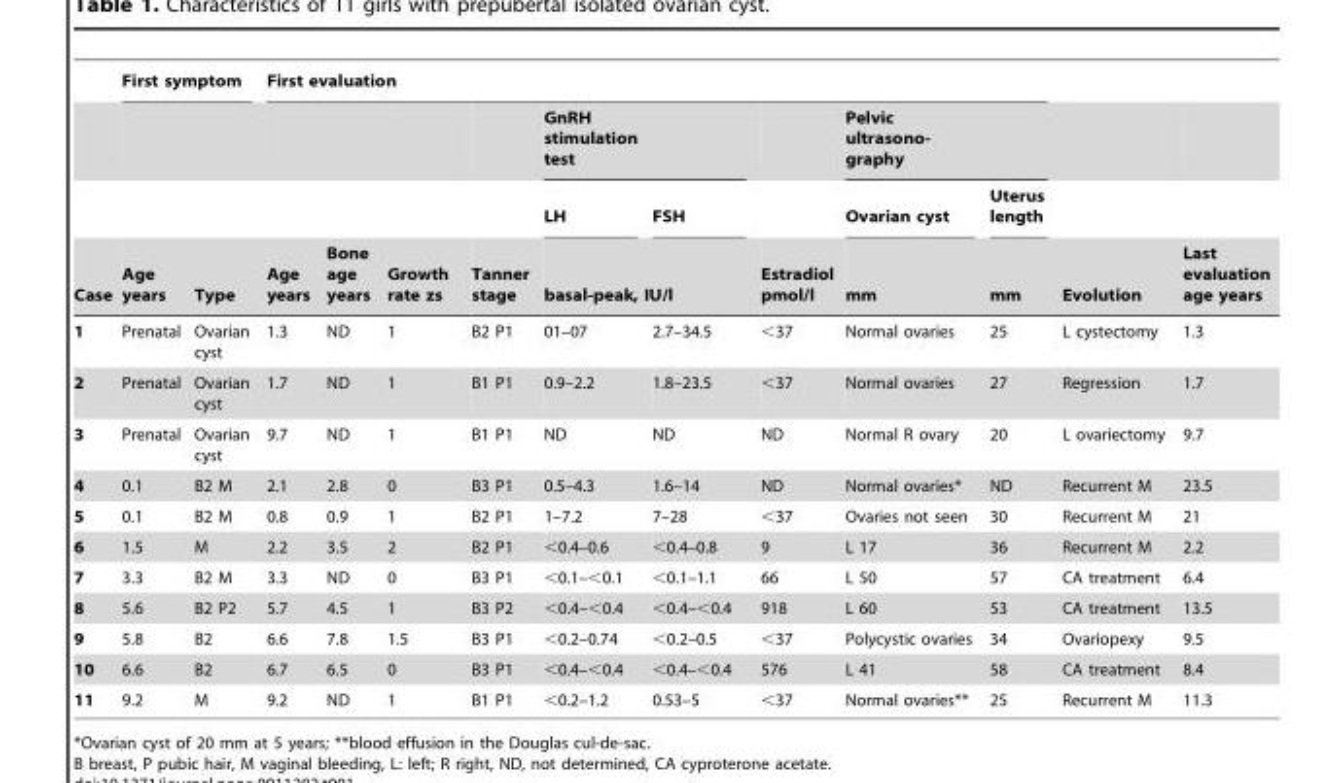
<table><thead><tr><td rowspan="4">Case</td><td colspan="2">First symptom</td><td colspan="9">First evaluation</td><td rowspan="4">Evolution</td><td rowspan="4">Last evaluation age years</td></tr><tr><td rowspan="3">Age years</td><td rowspan="3">Type</td><td rowspan="3">Age years</td><td rowspan="3">Bone age years</td><td rowspan="3">Growth rate zs</td><td rowspan="3">Tanner stage</td><td colspan="2">GnRH stimulation test</td><td rowspan="3">Estradiol pmol/l</td><td colspan="2">Pelvic ultrasono- graphy</td></tr><tr><td>LH</td><td>FSH</td><td rowspan="2">Ovarian cyst mm</td><td rowspan="2">Uterus length mm</td></tr><tr><td colspan="2">basal-peak, IU/l</td></tr></thead><tbody><tr><td>1</td><td>Prenatal</td><td>Ovarian cyst</td><td>1.3</td><td>ND</td><td>1</td><td>B2 P1</td><td>01–07</td><td>2.7–34.5</td><td>&lt;37</td><td>Normal ovaries</td><td>25</td><td>L cystectomy</td><td>1.3</td></tr><tr><td>2</td><td>Prenatal</td><td>Ovarian cyst</td><td>1.7</td><td>ND</td><td>1</td><td>B1 P1</td><td>0.9–2.2</td><td>1.8–23.5</td><td>&lt;37</td><td>Normal ovaries</td><td>27</td><td>Regression</td><td>1.7</td></tr><tr><td>3</td><td>Prenatal</td><td>Ovarian cyst</td><td>9.7</td><td>ND</td><td>1</td><td>B1 P1</td><td>ND</td><td>ND</td><td>ND</td><td>Normal R ovary</td><td>20</td><td>L ovariectomy</td><td>9.7</td></tr><tr><td>4</td><td>0.1</td><td>B2 M</td><td>2.1</td><td>2.8</td><td>0</td><td>B3 P1</td><td>0.5–4.3</td><td>1.6–14</td><td>ND</td><td>Normal ovaries*</td><td>ND</td><td>Recurrent M</td><td>23.5</td></tr><tr><td>5</td><td>0.1</td><td>B2 M</td><td>0.8</td><td>0.9</td><td>1</td><td>B2 P1</td><td>1–7.2</td><td>7–28</td><td>&lt;37</td><td>Ovaries not seen</td><td>30</td><td>Recurrent M</td><td>21</td></tr><tr><td>6</td><td>1.5</td><td>M</td><td>2.2</td><td>3.5</td><td>2</td><td>B2 P1</td><td>&lt;0.4–0.6</td><td>&lt;0.4–0.8</td><td>9</td><td>L 17</td><td>36</td><td>Recurrent M</td><td>2.2</td></tr><tr><td>7</td><td>3.3</td><td>B2 M</td><td>3.3</td><td>ND</td><td>0</td><td>B3 P1</td><td>&lt;0.1–&lt;0.1</td><td>&lt;0.1–1.1</td><td>66</td><td>L 50</td><td>57</td><td>CA treatment</td><td>6.4</td></tr><tr><td>8</td><td>5.6</td><td>B2 P2</td><td>5.7</td><td>4.5</td><td>1</td><td>B3 P2</td><td>&lt;0.4–&lt;0.4</td><td>&lt;0.4–&lt;0.4</td><td>918</td><td>L 60</td><td>53</td><td>CA treatment</td><td>13.5</td></tr><tr><td>9</td><td>5.8</td><td>B2</td><td>6.6</td><td>7.8</td><td>1.5</td><td>B3 P1</td><td>&lt;0.2–0.74</td><td>&lt;0.2–0.5</td><td>&lt;37</td><td>Polycystic ovaries</td><td>34</td><td>Ovariopexy</td><td>9.5</td></tr><tr><td>10</td><td>6.6</td><td>B2</td><td>6.7</td><td>6.5</td><td>0</td><td>B3 P1</td><td>&lt;0.4–&lt;0.4</td><td>&lt;0.4–&lt;0.4</td><td>576</td><td>L 41</td><td>58</td><td>CA treatment</td><td>8.4</td></tr><tr><td>11</td><td>9.2</td><td>M</td><td>9.2</td><td>ND</td><td>1</td><td>B1 P1</td><td>&lt;0.2–1.2</td><td>0.53–5</td><td>&lt;37</td><td>Normal ovaries**</td><td>25</td><td>Recurrent M</td><td>11.3</td></tr></tbody></table>